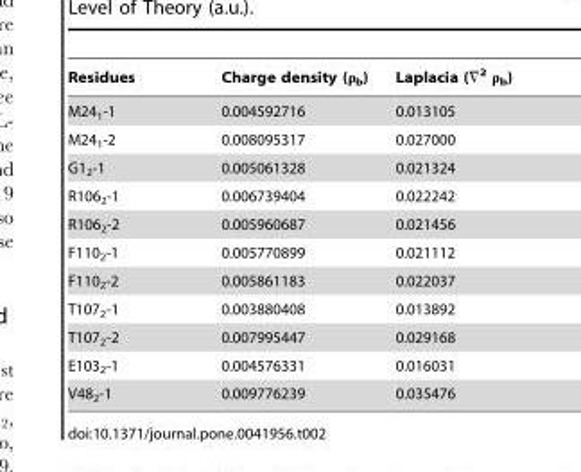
<table><thead><tr><td>Residues</td><td>Charge density (ρ<sub>b</sub>)</td><td>Laplacia (=2 rb)</td></tr></thead><tbody><tr><td>M24<sub>1</sub>-1</td><td>0.004592716</td><td>0.013105</td></tr><tr><td>M24<sub>1</sub>-2</td><td>0.008095317</td><td>0.027000</td></tr><tr><td>G1<sub>2</sub>-1</td><td>0.005061328</td><td>0.021324</td></tr><tr><td>R106<sub>2</sub>-1</td><td>0.006739404</td><td>0.022242</td></tr><tr><td>R106<sub>2</sub>-2</td><td>0.005960687</td><td>0.021456</td></tr><tr><td>F110<sub>2</sub>-1</td><td>0.005770899</td><td>0.021112</td></tr><tr><td>F110<sub>2</sub>-2</td><td>0.005861183</td><td>0.022037</td></tr><tr><td>T107<sub>2</sub>-1</td><td>0.003880408</td><td>0.013892</td></tr><tr><td>T107<sub>2</sub>-2</td><td>0.007995447</td><td>0.029168</td></tr><tr><td>E103<sub>2</sub>-1</td><td>0.004576331</td><td>0.016031</td></tr><tr><td>V48<sub>2</sub>-1</td><td>0.009776239</td><td>0.035476</td></tr></tbody></table>